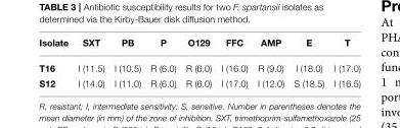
<table><thead><tr><td>Isolate</td><td>SXT</td><td>PB</td><td>P</td><td>O129</td><td>FFC</td><td>AMP</td><td>E</td><td>T</td></tr></thead><tbody><tr><td>T16</td><td>I (11.5)</td><td>I (10.5)</td><td>R (6.0)</td><td>R (6.0)</td><td>I (16.0)</td><td>R (9.0)</td><td>I (18.0)</td><td>I (17.0)</td></tr><tr><td>S12</td><td>I (14.0)</td><td>I (11.0)</td><td>R (6.0)</td><td>R (6.0)</td><td>I (17.0)</td><td>I (12.0)</td><td>S (18.5)</td><td>I (16.5)</td></tr></tbody></table>